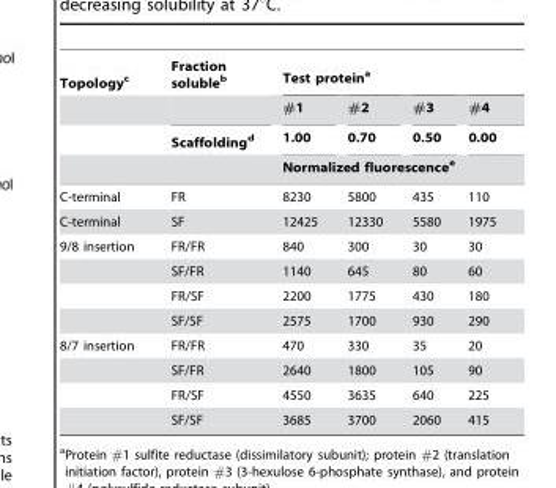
<table><thead><tr><td rowspan="4">Topology<sup>c</sup></td><td rowspan="4">Fraction soluble<sup>b</sup> Scaffolding<sup>d</sup></td><td colspan="4">Test protein<sup>a</sup></td></tr><tr><td rowspan="2">#1 1.00</td><td rowspan="2">#2 0.70</td><td rowspan="2">#3 0.50</td><td rowspan="2">#4 0.00</td></tr><tr></tr><tr><td colspan="4">Normalized fluorescence<sup>e</sup></td></tr></thead><tbody><tr><td>C-terminal</td><td>FR</td><td>8230</td><td>5800</td><td>435</td><td>110</td></tr><tr><td>C-terminal</td><td>SF</td><td>12425</td><td>12330</td><td>5580</td><td>1975</td></tr><tr><td rowspan="4">9/8 insertion</td><td>FR/FR</td><td>840</td><td>300</td><td>30</td><td>30</td></tr><tr><td>SF/FR</td><td>1140</td><td>645</td><td>80</td><td>60</td></tr><tr><td>FR/SF</td><td>2200</td><td>1775</td><td>430</td><td>180</td></tr><tr><td>SF/SF</td><td>2575</td><td>1700</td><td>930</td><td>290</td></tr><tr><td rowspan="4">8/7 insertion</td><td>FR/FR</td><td>470</td><td>330</td><td>35</td><td>20</td></tr><tr><td>SF/FR</td><td>2640</td><td>1800</td><td>105</td><td>90</td></tr><tr><td>FR/SF</td><td>4550</td><td>3635</td><td>640</td><td>225</td></tr><tr><td>SF/SF</td><td>3685</td><td>3700</td><td>2060</td><td>415</td></tr></tbody></table>